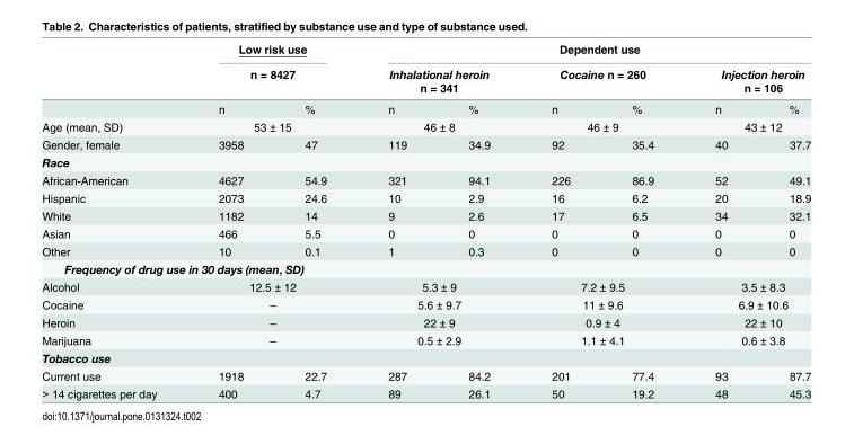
<table><thead><tr><td rowspan="3"></td><td rowspan="2" colspan="2">Low risk use n = 8427</td><td colspan="6">Dependent use</td></tr><tr><td colspan="2">Inhalational heroin n = 341</td><td colspan="2">Cocaine n = 260</td><td colspan="2">Injection heroin n = 106</td></tr><tr><td>n</td><td>%</td><td>n</td><td>%</td><td>n</td><td>%</td><td>n</td><td>%</td></tr></thead><tbody><tr><td>Age (mean, SD)</td><td colspan="2">53 ± 15</td><td colspan="2">46 ± 8</td><td colspan="2">46 ± 9</td><td colspan="2">43 ± 12</td></tr><tr><td>Gender, female</td><td>3958</td><td>47</td><td>119</td><td>34.9</td><td>92</td><td>35.4</td><td>40</td><td>37.7</td></tr><tr><td colspan="9">Race</td></tr><tr><td>African-American</td><td>4627</td><td>54.9</td><td>321</td><td>94.1</td><td>226</td><td>86.9</td><td>52</td><td>49.1</td></tr><tr><td>Hispanic</td><td>2073</td><td>24.6</td><td>10</td><td>2.9</td><td>16</td><td>6.2</td><td>20</td><td>18.9</td></tr><tr><td>White</td><td>1182</td><td>14</td><td>9</td><td>2.6</td><td>17</td><td>6.5</td><td>34</td><td>32.1</td></tr><tr><td>Asian</td><td>466</td><td>5.5</td><td>0</td><td>0</td><td>0</td><td>0</td><td>0</td><td>0</td></tr><tr><td>Other</td><td>10</td><td>0.1</td><td>1</td><td>0.3</td><td>0</td><td>0</td><td>0</td><td>0</td></tr><tr><td colspan="9">Frequency of drug use in 30 days (mean, SD)</td></tr><tr><td>Alcohol</td><td colspan="2">12.5 ± 12</td><td colspan="2">5.3 ± 9</td><td colspan="2">7.2 ± 9.5</td><td colspan="2">3.5 ± 8.3</td></tr><tr><td>Cocaine</td><td colspan="2">–</td><td colspan="2">5.6 ± 9.7</td><td colspan="2">11 ± 9.6</td><td colspan="2">6.9 ± 10.6</td></tr><tr><td>Heroin</td><td colspan="2">–</td><td colspan="2">22 ± 9</td><td colspan="2">0.9 ± 4</td><td colspan="2">22 ± 10</td></tr><tr><td>Marijuana</td><td colspan="2">–</td><td colspan="2">0.5 ± 2.9</td><td colspan="2">1.1 ± 4.1</td><td colspan="2">0.6 ± 3.8</td></tr><tr><td colspan="9">Tobacco use</td></tr><tr><td>Current use</td><td>1918</td><td>22.7</td><td>287</td><td>84.2</td><td>201</td><td>77.4</td><td>93</td><td>87.7</td></tr><tr><td>&gt; 14 cigarettes per day</td><td>400</td><td>4.7</td><td>89</td><td>26.1</td><td>50</td><td>19.2</td><td>48</td><td>45.3</td></tr></tbody></table>